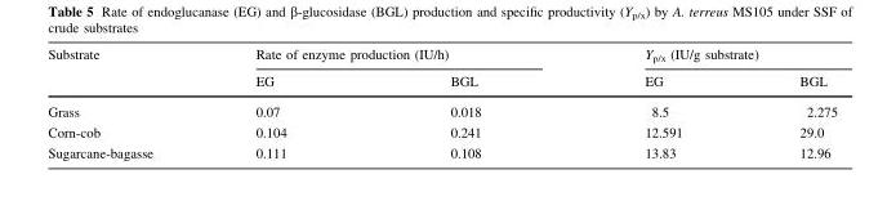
<table><thead><tr><td rowspan="2">Substrate</td><td colspan="2">Rate of enzyme production (IU/h)</td><td colspan="2">Y<sub>p/x</sub> (IU/g substrate)</td></tr><tr><td>EG</td><td>BGL</td><td>EG</td><td>BGL</td></tr></thead><tbody><tr><td>Grass</td><td>0.07</td><td>0.018</td><td>8.5</td><td>2.275</td></tr><tr><td>Corn-cob</td><td>0.104</td><td>0.241</td><td>12.591</td><td>29.0</td></tr><tr><td>Sugarcane-bagasse</td><td>0.111</td><td>0.108</td><td>13.83</td><td>12.96</td></tr></tbody></table>